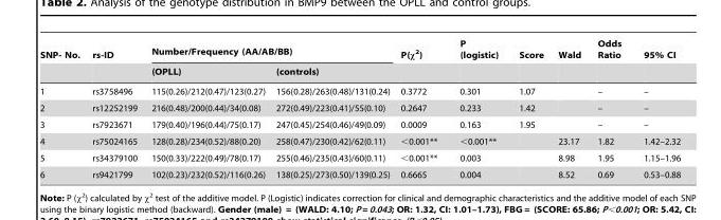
<table><thead><tr><td rowspan="2">SNP- No.</td><td rowspan="2">rs-ID</td><td colspan="2">Number/Frequency (AA/AB/BB)</td><td rowspan="2">P(χ<sup>2</sup>)</td><td rowspan="2">P (logistic)</td><td rowspan="2">Score</td><td rowspan="2">Wald</td><td rowspan="2">Odds Ratio</td><td rowspan="2">95% CI</td></tr><tr><td>(OPLL)</td><td>(controls)</td></tr></thead><tbody><tr><td>1</td><td>rs3758496</td><td>115(0.26)/212(0.47)/123(0.27)</td><td>156(0.28)/263(0.48)/131(0.24)</td><td>0.3772</td><td>0.301</td><td>1.07</td><td></td><td>–</td><td>–</td></tr><tr><td>2</td><td>rs12252199</td><td>216(0.48)/200(0.44)/34(0.08)</td><td>272(0.49)/223(0.41)/55(0.10)</td><td>0.2647</td><td>0.233</td><td>1.42</td><td></td><td>–</td><td>–</td></tr><tr><td>3</td><td>rs7923671</td><td>179(0.40)/196(0.44)/75(0.17)</td><td>247(0.45)/254(0.46)/49(0.09)</td><td>0.0009</td><td>0.163</td><td>1.95</td><td></td><td>–</td><td>–</td></tr><tr><td>4</td><td>rs75024165</td><td>128(0.28)/234(0.52)/88(0.20)</td><td>258(0.47)/230(0.42)/62(0.11)</td><td>&lt;0.001**</td><td>&lt;0.001**</td><td></td><td>23.17</td><td>1.82</td><td>1.42–2.32</td></tr><tr><td>5</td><td>rs34379100</td><td>150(0.33)/222(0.49)/78(0.17)</td><td>255(0.46)/235(0.43)/60(0.11)</td><td>&lt;0.001**</td><td>0.003</td><td></td><td>8.98</td><td>1.95</td><td>1.15–1.96</td></tr><tr><td>6</td><td>rs9421799</td><td>102(0.23)/232(0.52)/116(0.26)</td><td>138(0.25)/273(0.50)/139(0.25)</td><td>0.6665</td><td>0.004</td><td></td><td>8.52</td><td>0.69</td><td>0.53–0.88</td></tr></tbody></table>